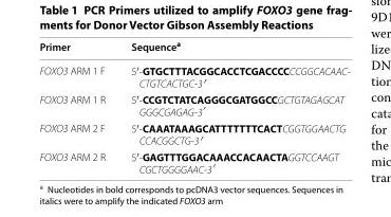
<table><thead><tr><td>Primer</td><td>Sequence<sup>a</sup></td></tr></thead><tbody><tr><td>FOXO3 ARM 1 F</td><td>5′‑GTGCTTTACGGCACCTCGACCCCCCGGCACAAC- CTGTCACTGC-3′</td></tr><tr><td>FOXO3 ARM 1 R</td><td>5′‑CCGTCTATCAGGGCGATGGCCGCTGTAGAGCAT GGGCGAGAG-3′</td></tr><tr><td>FOXO3 ARM 2 F</td><td>5′‑CAAATAAAGCATTTTTTTCACTCGGTGGAACTG CCACGGCTG-3′</td></tr><tr><td>FOXO3 ARM 2 R</td><td>5′‑GAGTTTGGACAAACCACAACTAGGTCCAAGT CGCTGGGGAAC-3′</td></tr></tbody></table>